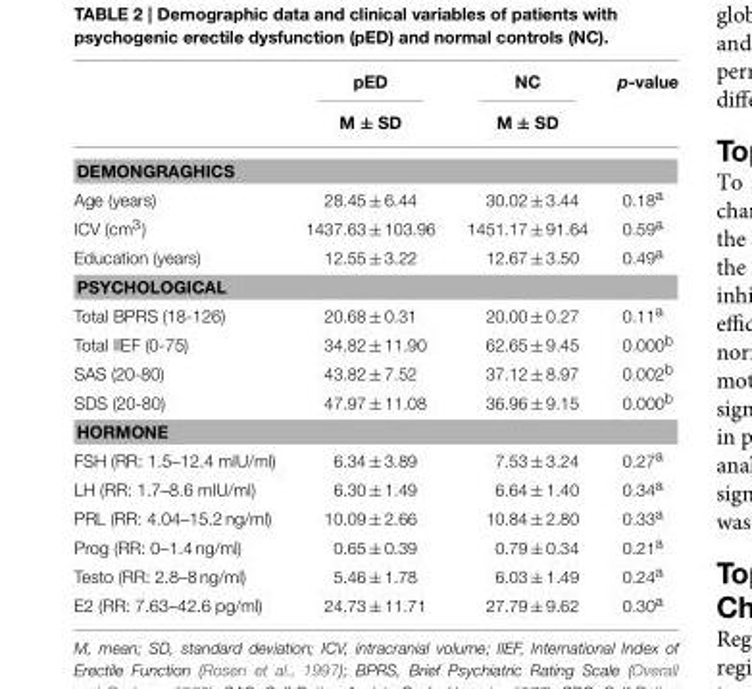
<table><thead><tr><td rowspan="2"></td><td rowspan="2">pED M ± SD</td><td rowspan="2">NC M ± SD</td><td rowspan="2">p-value</td></tr><tr></tr></thead><tbody><tr><td colspan="4">DEMONGRAGHICS</td></tr><tr><td>Age (years)</td><td>28.45 ± 6.44</td><td>30.02 ± 3.44</td><td>0.18<sup>a</sup></td></tr><tr><td>ICV (cm<sup>3</sup>)</td><td>1437.63 ± 103.96</td><td>1451.17 ± 91.64</td><td>0.59<sup>a</sup></td></tr><tr><td>Education (years)</td><td>12.55 ± 3.22</td><td>12.67 ± 3.50</td><td>0.49<sup>a</sup></td></tr><tr><td colspan="4">PSYCHOLOGICAL</td></tr><tr><td>Total BPRS (18-126)</td><td>20.68 ± 0.31</td><td>20.00 ± 0.27</td><td>0.11<sup>a</sup></td></tr><tr><td>Total IIEF (0-75)</td><td>34.82 ± 11.90</td><td>62.65 ± 9.45</td><td>0.000<sup>b</sup></td></tr><tr><td>SAS (20-80)</td><td>43.82 ± 7.52</td><td>37.12 ± 8.97</td><td>0.002<sup>b</sup></td></tr><tr><td>SDS (20-80)</td><td>47.97 ± 11.08</td><td>36.96 ± 9.15</td><td>0.000<sup>b</sup></td></tr><tr><td colspan="4">HORMONE</td></tr><tr><td>FSH (RR: 1.5–12.4 mIU/ml)</td><td>6.34 ± 3.89</td><td>7.53 ± 3.24</td><td>0.27<sup>a</sup></td></tr><tr><td>LH (RR: 1.7–8.6 mIU/ml)</td><td>6.30 ± 1.49</td><td>6.64 ± 1.40</td><td>0.34<sup>a</sup></td></tr><tr><td>PRL (RR: 4.04–15.2 ng/ml)</td><td>10.09 ± 2.66</td><td>10.84 ± 2.80</td><td>0.33<sup>a</sup></td></tr><tr><td>Prog (RR: 0–1.4 ng/ml)</td><td>0.65 ± 0.39</td><td>0.79 ± 0.34</td><td>0.21<sup>a</sup></td></tr><tr><td>Testo (RR: 2.8–8 ng/ml)</td><td>5.46 ± 1.78</td><td>6.03 ± 1.49</td><td>0.24<sup>a</sup></td></tr><tr><td>E2 (RR: 7.63–42.6 pg/ml)</td><td>24.73 ± 11.71</td><td>27.79 ± 9.62</td><td>0.30<sup>a</sup></td></tr></tbody></table>